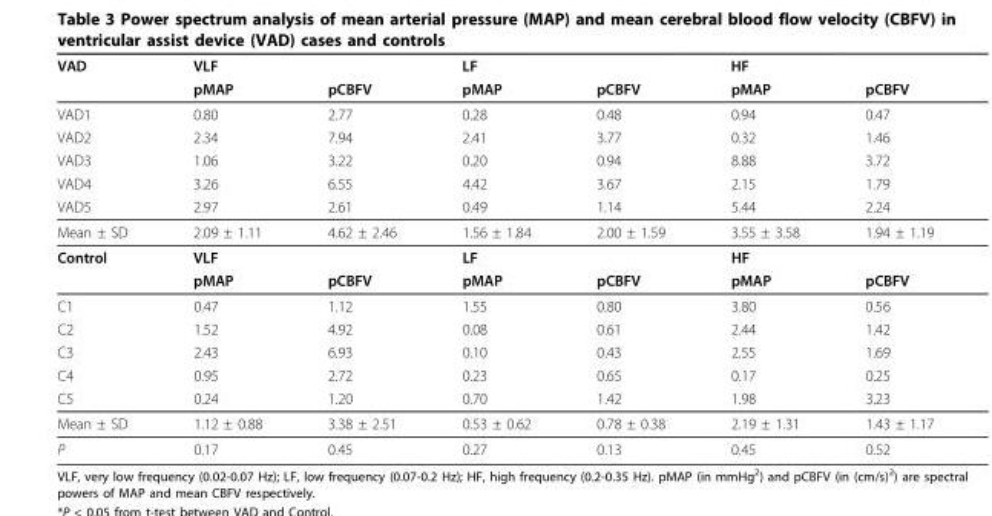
<table><thead><tr><td rowspan="2">VAD</td><td rowspan="2">VLF pMAP</td><td rowspan="2">pCBFV</td><td rowspan="2">LF pMAP</td><td rowspan="2">pCBFV</td><td rowspan="2">HF pMAP</td><td rowspan="2">pCBFV</td></tr><tr></tr></thead><tbody><tr><td>VAD1</td><td>0.80</td><td>2.77</td><td>0.28</td><td>0.48</td><td>0.94</td><td>0.47</td></tr><tr><td>VAD2</td><td>2.34</td><td>7.94</td><td>2.41</td><td>3.77</td><td>0.32</td><td>1.46</td></tr><tr><td>VAD3</td><td>1.06</td><td>3.22</td><td>0.20</td><td>0.94</td><td>8.88</td><td>3.72</td></tr><tr><td>VAD4</td><td>3.26</td><td>6.55</td><td>4.42</td><td>3.67</td><td>2.15</td><td>1.79</td></tr><tr><td>VAD5</td><td>2.97</td><td>2.61</td><td>0.49</td><td>1.14</td><td>5.44</td><td>2.24</td></tr><tr><td>Mean ± SD</td><td>2.09 ± 1.11</td><td>4.62 ± 2.46</td><td>1.56 ± 1.84</td><td>2.00 ± 1.59</td><td>3.55 ± 3.58</td><td>1.94 ± 1.19</td></tr><tr><td rowspan="2">Control</td><td>VLF</td><td></td><td>LF</td><td></td><td>HF</td><td></td></tr><tr><td>pMAP</td><td>pCBFV</td><td>pMAP</td><td>pCBFV</td><td>pMAP</td><td>pCBFV</td></tr><tr><td>C1</td><td>0.47</td><td>1.12</td><td>1.55</td><td>0.80</td><td>3.80</td><td>0.56</td></tr><tr><td>C2</td><td>1.52</td><td>4.92</td><td>0.08</td><td>0.61</td><td>2.44</td><td>1.42</td></tr><tr><td>C3</td><td>2.43</td><td>6.93</td><td>0.10</td><td>0.43</td><td>2.55</td><td>1.69</td></tr><tr><td>C4</td><td>0.95</td><td>2.72</td><td>0.23</td><td>0.65</td><td>0.17</td><td>0.25</td></tr><tr><td>C5</td><td>0.24</td><td>1.20</td><td>0.70</td><td>1.42</td><td>1.98</td><td>3.23</td></tr><tr><td>Mean ± SD</td><td>1.12 ± 0.88</td><td>3.38 ± 2.51</td><td>0.53 ± 0.62</td><td>0.78 ± 0.38</td><td>2.19 ± 1.31</td><td>1.43 ± 1.17</td></tr><tr><td>P</td><td>0.17</td><td>0.45</td><td>0.27</td><td>0.13</td><td>0.45</td><td>0.52</td></tr></tbody></table>